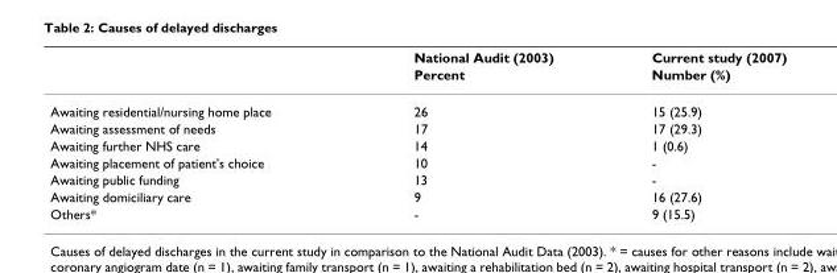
<table><thead><tr><td rowspan="2"></td><td rowspan="2">National Audit (2003) Percent</td><td rowspan="2">Current study (2007) Number (%)</td></tr><tr></tr></thead><tbody><tr><td>Awaiting residential/nursing home place</td><td>26</td><td>15 (25.9)</td></tr><tr><td>Awaiting assessment of needs</td><td>17</td><td>17 (29.3)</td></tr><tr><td>Awaiting further NHS care</td><td>14</td><td>1 (0.6)</td></tr><tr><td>Awaiting placement of patient&#x27;s choice</td><td>10</td><td>-</td></tr><tr><td>Awaiting public funding</td><td>13</td><td>-</td></tr><tr><td>Awaiting domiciliary care</td><td>9</td><td>16 (27.6)</td></tr><tr><td>Others*</td><td>-</td><td>9 (15.5)</td></tr></tbody></table>